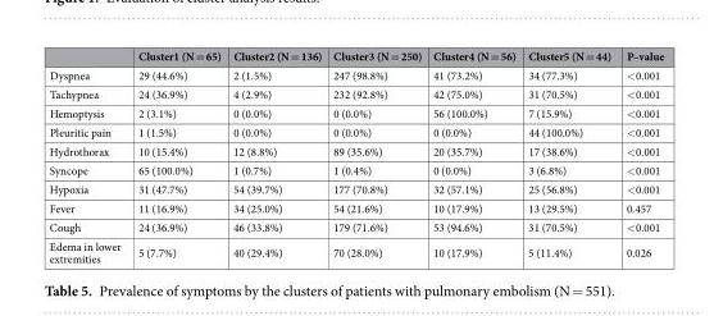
<table><thead><tr><td></td><td>Cluster1 (N = 65)</td><td>Cluster2 (N = 136)</td><td>Cluster3 (N = 250)</td><td>Cluster4 (N = 56)</td><td>Cluster5 (N = 44)</td><td>P–value</td></tr></thead><tbody><tr><td>Dyspnea</td><td>29 (44.6%)</td><td>2 (1.5%)</td><td>247 (98.8%)</td><td>41 (73.2%)</td><td>34 (77.3%)</td><td>&lt;0.001</td></tr><tr><td>Tachypnea</td><td>24 (36.9%)</td><td>4 (2.9%)</td><td>232 (92.8%)</td><td>42 (75.0%)</td><td>31 (70.5%)</td><td>&lt;0.001</td></tr><tr><td>Hemoptysis</td><td>2 (3.1%)</td><td>0 (0.0%)</td><td>0 (0.0%)</td><td>56 (100.0%)</td><td>7 (15.9%)</td><td>&lt;0.001</td></tr><tr><td>Pleuritic pain</td><td>1 (1.5%)</td><td>0 (0.0%)</td><td>0 (0.0%)</td><td>0 (0.0%)</td><td>44 (100.0%)</td><td>&lt;0.001</td></tr><tr><td>Hydrothorax</td><td>10 (15.4%)</td><td>12 (8.8%)</td><td>89 (35.6%)</td><td>20 (35.7%)</td><td>17 (38.6%)</td><td>&lt;0.001</td></tr><tr><td>Syncope</td><td>65 (100.0%)</td><td>1 (0.7%)</td><td>1 (0.4%)</td><td>0 (0.0%)</td><td>3 (6.8%)</td><td>&lt;0.001</td></tr><tr><td>Hypoxia</td><td>31 (47.7%)</td><td>54 (39.7%)</td><td>177 (70.8%)</td><td>32 (57.1%)</td><td>25 (56.8%)</td><td>&lt;0.001</td></tr><tr><td>Fever</td><td>11 (16.9%)</td><td>34 (25.0%)</td><td>54 (21.6%)</td><td>10 (17.9%)</td><td>13 (29.5%)</td><td>0.457</td></tr><tr><td>Cough</td><td>24 (36.9%)</td><td>46 (33.8%)</td><td>179 (71.6%)</td><td>53 (94.6%)</td><td>31 (70.5%)</td><td>&lt;0.001</td></tr><tr><td>Edema in lower extremities</td><td>5 (7.7%)</td><td>40 (29.4%)</td><td>70 (28.0%)</td><td>10 (17.9%)</td><td>5 (11.4%)</td><td>0.026</td></tr></tbody></table>